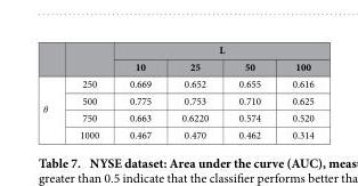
<table><thead><tr><td rowspan="2"></td><td rowspan="2"></td><td colspan="4">L</td></tr><tr><td>10</td><td>25</td><td>50</td><td>100</td></tr></thead><tbody><tr><td rowspan="4">θ</td><td>250</td><td>0.669</td><td>0.652</td><td>0.655</td><td>0.616</td></tr><tr><td>500</td><td>0.775</td><td>0.753</td><td>0.710</td><td>0.625</td></tr><tr><td>750</td><td>0.663</td><td>0.6220</td><td>0.574</td><td>0.520</td></tr><tr><td>1000</td><td>0.467</td><td>0.470</td><td>0.462</td><td>0.314</td></tr></tbody></table>